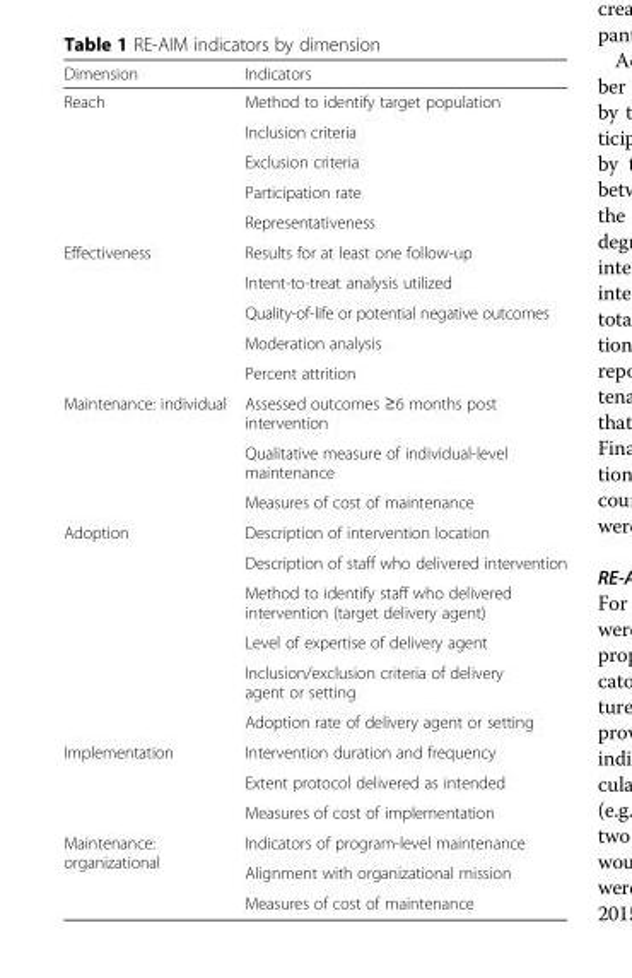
<table><thead><tr><td>Dimension</td><td>Indicators</td></tr></thead><tbody><tr><td rowspan="5">Reach</td><td>Method to identify target population</td></tr><tr><td>Inclusion criteria</td></tr><tr><td>Exclusion criteria</td></tr><tr><td>Participation rate</td></tr><tr><td>Representativeness</td></tr><tr><td rowspan="5">Effectiveness</td><td>Results for at least one follow-up</td></tr><tr><td>Intent-to-treat analysis utilized</td></tr><tr><td>Quality-of-life or potential negative outcomes</td></tr><tr><td>Moderation analysis</td></tr><tr><td>Percent attrition</td></tr><tr><td rowspan="3">Maintenance: individual</td><td>Assessed outcomes ≥6 months post intervention</td></tr><tr><td>Qualitative measure of individual-level maintenance</td></tr><tr><td>Measures of cost of maintenance</td></tr><tr><td rowspan="6">Adoption</td><td>Description of intervention location</td></tr><tr><td>Description of staff who delivered intervention</td></tr><tr><td>Method to identify staff who delivered intervention (target delivery agent)</td></tr><tr><td>Level of expertise of delivery agent</td></tr><tr><td>Inclusion/exclusion criteria of delivery agent or setting</td></tr><tr><td>Adoption rate of delivery agent or setting</td></tr><tr><td rowspan="3">Implementation</td><td>Intervention duration and frequency</td></tr><tr><td>Extent protocol delivered as intended</td></tr><tr><td>Measures of cost of implementation</td></tr><tr><td rowspan="3">Maintenance: organizational</td><td>Indicators of program-level maintenance</td></tr><tr><td>Alignment with organizational mission</td></tr><tr><td>Measures of cost of maintenance</td></tr></tbody></table>